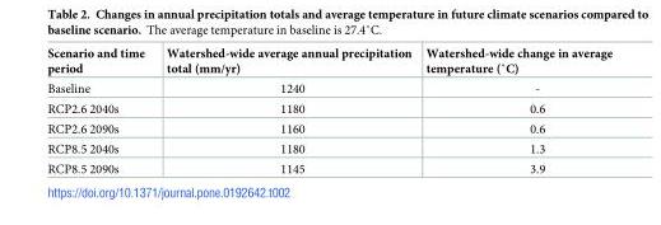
<table><thead><tr><td>Scenario and time period</td><td>Watershed-wide average annual precipitation total (mm/yr)</td><td>Watershed-wide change in average temperature (˚C)</td></tr></thead><tbody><tr><td>Baseline</td><td>1240</td><td>-</td></tr><tr><td>RCP2.6 2040s</td><td>1180</td><td>0.6</td></tr><tr><td>RCP2.6 2090s</td><td>1160</td><td>0.6</td></tr><tr><td>RCP8.5 2040s</td><td>1180</td><td>1.3</td></tr><tr><td>RCP8.5 2090s</td><td>1145</td><td>3.9</td></tr></tbody></table>